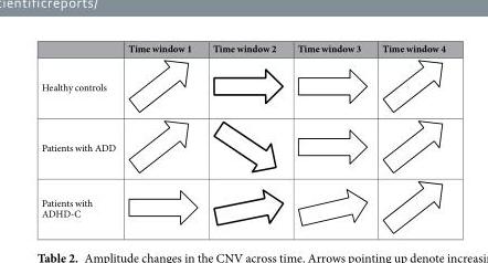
<table><thead><tr><td></td><td>Time window 1</td><td>Time window 2</td><td>Time window 3</td><td>Time window 4</td></tr></thead><tbody><tr><td colspan="5">Healthy controls</td></tr><tr><td colspan="5">Patients with ADD</td></tr><tr><td>Patients with ADHD-C</td><td></td><td></td><td></td><td></td></tr></tbody></table>